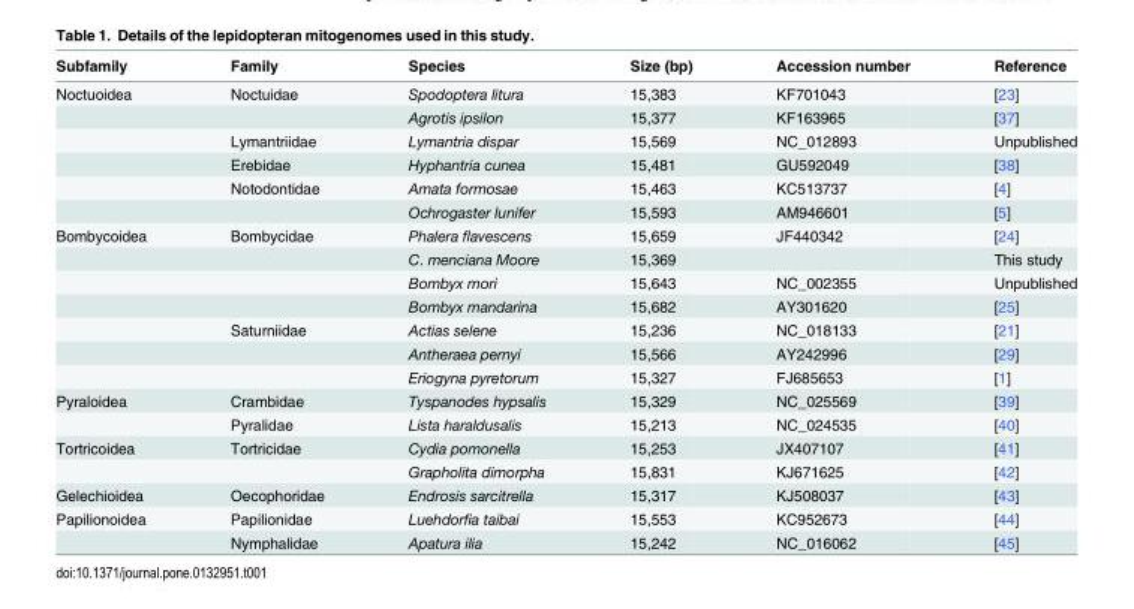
<table><thead><tr><td>Subfamily</td><td>Family</td><td>Species</td><td>Size (bp)</td><td>Accession number</td><td>Reference</td></tr></thead><tbody><tr><td rowspan="6">Noctuoidea</td><td>Noctuidae</td><td>Spodoptera litura</td><td>15,383</td><td>KF701043</td><td>[23]</td></tr><tr><td></td><td>Agrotis ipsilon</td><td>15,377</td><td>KF163965</td><td>[37]</td></tr><tr><td>Lymantriidae</td><td>Lymantria dispar</td><td>15,569</td><td>NC_012893</td><td>Unpublished</td></tr><tr><td>Erebidae</td><td>Hyphantria cunea</td><td>15,481</td><td>GU592049</td><td>[38]</td></tr><tr><td>Notodontidae</td><td>Amata formosae</td><td>15,463</td><td>KC513737</td><td>[4]</td></tr><tr><td></td><td>Ochrogaster lunifer</td><td>15,593</td><td>AM946601</td><td>[5]</td></tr><tr><td rowspan="7">Bombycoidea</td><td>Bombycidae</td><td>Phalera flavescens</td><td>15,659</td><td>JF440342</td><td>[24]</td></tr><tr><td></td><td>C. menciana Moore</td><td>15,369</td><td></td><td>This study</td></tr><tr><td></td><td>Bombyx mori</td><td>15,643</td><td>NC_002355</td><td>Unpublished</td></tr><tr><td></td><td>Bombyx mandarina</td><td>15,682</td><td>AY301620</td><td>[25]</td></tr><tr><td>Saturniidae</td><td>Actias selene</td><td>15,236</td><td>NC_018133</td><td>[21]</td></tr><tr><td></td><td>Antheraea pernyi</td><td>15,566</td><td>AY242996</td><td>[29]</td></tr><tr><td></td><td>Eriogyna pyretorum</td><td>15,327</td><td>FJ685653</td><td>[1]</td></tr><tr><td rowspan="2">Pyraloidea</td><td>Crambidae</td><td>Tyspanodes hypsalis</td><td>15,329</td><td>NC_025569</td><td>[39]</td></tr><tr><td>Pyralidae</td><td>Lista haraldusalis</td><td>15,213</td><td>NC_024535</td><td>[40]</td></tr><tr><td rowspan="2">Tortricoidea</td><td>Tortricidae</td><td>Cydia pomonella</td><td>15,253</td><td>JX407107</td><td>[41]</td></tr><tr><td></td><td>Grapholita dimorpha</td><td>15,831</td><td>KJ671625</td><td>[42]</td></tr><tr><td>Gelechioidea</td><td>Oecophoridae</td><td>Endrosis sarcitrella</td><td>15,317</td><td>KJ508037</td><td>[43]</td></tr><tr><td rowspan="2">Papilionoidea</td><td>Papilionidae</td><td>Luehdorfia taibai</td><td>15,553</td><td>KC952673</td><td>[44]</td></tr><tr><td>Nymphalidae</td><td>Apatura ilia</td><td>15,242</td><td>NC_016062</td><td>[45]</td></tr></tbody></table>